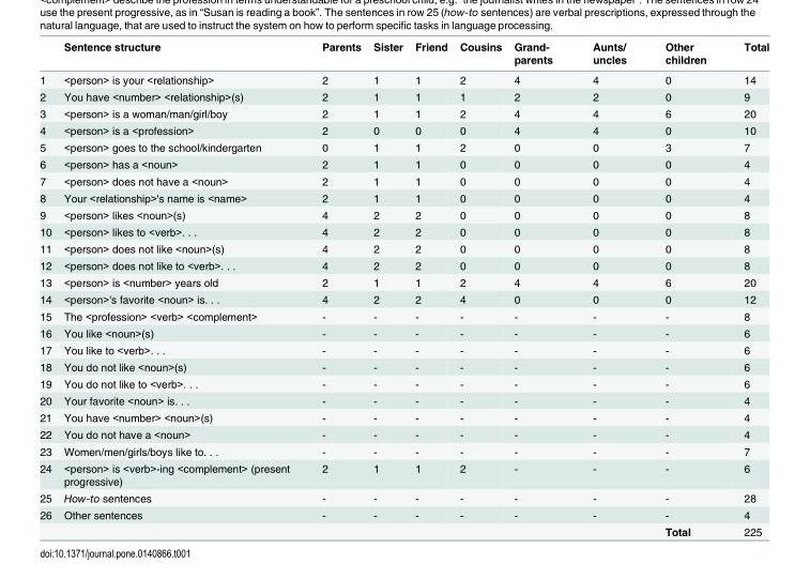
<table><thead><tr><td></td><td>Sentence structure</td><td>Parents</td><td>Sister</td><td>Friend</td><td>Cousins</td><td>Grand- parents</td><td>Aunts/ uncles</td><td>Other children</td><td>Total</td></tr></thead><tbody><tr><td>1</td><td>&lt;person&gt; is your &lt;relationship&gt;</td><td>2</td><td>1</td><td>1</td><td>2</td><td>4</td><td>4</td><td>0</td><td>14</td></tr><tr><td>2</td><td>You have &lt;number&gt; &lt;relationship&gt;(s)</td><td>2</td><td>1</td><td>1</td><td>1</td><td>2</td><td>2</td><td>0</td><td>9</td></tr><tr><td>3</td><td>&lt;person&gt; is a woman/man/girl/boy</td><td>2</td><td>1</td><td>1</td><td>2</td><td>4</td><td>4</td><td>6</td><td>20</td></tr><tr><td>4</td><td>&lt;person&gt; is a &lt;profession&gt;</td><td>2</td><td>0</td><td>0</td><td>0</td><td>4</td><td>4</td><td>0</td><td>10</td></tr><tr><td>5</td><td>&lt;person&gt; goes to the school/kindergarten</td><td>0</td><td>1</td><td>1</td><td>2</td><td>0</td><td>0</td><td>3</td><td>7</td></tr><tr><td>6</td><td>&lt;person&gt; has a &lt;noun&gt;</td><td>2</td><td>1</td><td>1</td><td>0</td><td>0</td><td>0</td><td>0</td><td>4</td></tr><tr><td>7</td><td>&lt;person&gt; does not have a &lt;noun&gt;</td><td>2</td><td>1</td><td>1</td><td>0</td><td>0</td><td>0</td><td>0</td><td>4</td></tr><tr><td>8</td><td>Your &lt;relationship&gt;&#x27;s name is &lt;name&gt;</td><td>2</td><td>1</td><td>1</td><td>0</td><td>0</td><td>0</td><td>0</td><td>4</td></tr><tr><td>9</td><td>&lt;person&gt; likes &lt;noun&gt;(s)</td><td>4</td><td>2</td><td>2</td><td>0</td><td>0</td><td>0</td><td>0</td><td>8</td></tr><tr><td>10</td><td>&lt;person&gt; likes to &lt;verb&gt;. . .</td><td>4</td><td>2</td><td>2</td><td>0</td><td>0</td><td>0</td><td>0</td><td>8</td></tr><tr><td>11</td><td>&lt;person&gt; does not like &lt;noun&gt;(s)</td><td>4</td><td>2</td><td>2</td><td>0</td><td>0</td><td>0</td><td>0</td><td>8</td></tr><tr><td>12</td><td>&lt;person&gt; does not like to &lt;verb&gt;. . .</td><td>4</td><td>2</td><td>2</td><td>0</td><td>0</td><td>0</td><td>0</td><td>8</td></tr><tr><td>13</td><td>&lt;person&gt; is &lt;number&gt; years old</td><td>2</td><td>1</td><td>1</td><td>2</td><td>4</td><td>4</td><td>6</td><td>20</td></tr><tr><td>14</td><td>&lt;person&gt;&#x27;s favorite &lt;noun&gt; is. . .</td><td>4</td><td>2</td><td>2</td><td>4</td><td>0</td><td>0</td><td>0</td><td>12</td></tr><tr><td>15</td><td>The &lt;profession&gt; &lt;verb&gt; &lt;complement&gt;</td><td>-</td><td>-</td><td>-</td><td>-</td><td>-</td><td>-</td><td>-</td><td>8</td></tr><tr><td>16</td><td>You like &lt;noun&gt;(s)</td><td>-</td><td>-</td><td>-</td><td>-</td><td>-</td><td>-</td><td>-</td><td>6</td></tr><tr><td>17</td><td>You like to &lt;verb&gt;. . .</td><td>-</td><td>-</td><td>-</td><td>-</td><td>-</td><td>-</td><td>-</td><td>6</td></tr><tr><td>18</td><td>You do not like &lt;noun&gt;(s)</td><td>-</td><td>-</td><td>-</td><td>-</td><td>-</td><td>-</td><td>-</td><td>6</td></tr><tr><td>19</td><td>You do not like to &lt;verb&gt;. . .</td><td>-</td><td>-</td><td>-</td><td>-</td><td>-</td><td>-</td><td>-</td><td>6</td></tr><tr><td>20</td><td>Your favorite &lt;noun&gt; is. . .</td><td>-</td><td>-</td><td>-</td><td>-</td><td>-</td><td>-</td><td>-</td><td>4</td></tr><tr><td>21</td><td>You have &lt;number&gt; &lt;noun&gt;(s)</td><td>-</td><td>-</td><td>-</td><td>-</td><td>-</td><td>-</td><td>-</td><td>4</td></tr><tr><td>22</td><td>You do not have a &lt;noun&gt;</td><td>-</td><td>-</td><td>-</td><td>-</td><td>-</td><td>-</td><td>-</td><td>4</td></tr><tr><td>23</td><td>Women/men/girls/boys like to. . .</td><td>-</td><td>-</td><td>-</td><td>-</td><td>-</td><td>-</td><td>-</td><td>7</td></tr><tr><td>24</td><td>&lt;person&gt; is &lt;verb&gt;-ing &lt;complement&gt; (present progressive)</td><td>2</td><td>1</td><td>1</td><td>2</td><td>-</td><td>-</td><td>-</td><td>6</td></tr><tr><td>25</td><td>How-to sentences</td><td>-</td><td>-</td><td>-</td><td>-</td><td>-</td><td>-</td><td>-</td><td>28</td></tr><tr><td rowspan="2">26</td><td>Other sentences</td><td>-</td><td>-</td><td>-</td><td>-</td><td>-</td><td>-</td><td>-</td><td>4</td></tr><tr><td></td><td></td><td></td><td></td><td></td><td></td><td></td><td>Total</td><td>225</td></tr></tbody></table>